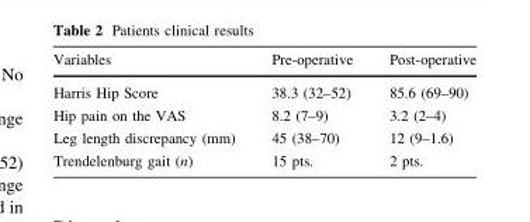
<table><thead><tr><td>Variables</td><td>Pre-operative</td><td>Post-operative</td></tr></thead><tbody><tr><td>Harris Hip Score</td><td>38.3 (32–52)</td><td>85.6 (69–90)</td></tr><tr><td>Hip pain on the VAS</td><td>8.2 (7–9)</td><td>3.2 (2–4)</td></tr><tr><td>Leg length discrepancy (mm)</td><td>45 (38–70)</td><td>12 (9–1.6)</td></tr><tr><td>Trendelenburg gait (n)</td><td>15 pts.</td><td>2 pts.</td></tr></tbody></table>